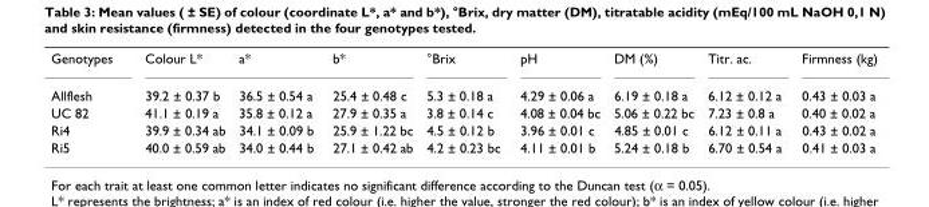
<table><tbody><tr><td>Genotypes</td><td>Colour L*</td><td>a*</td><td>b*</td><td>°Brix</td><td>pH</td><td>DM (%)</td><td>Titr. ac.</td><td>Firmness (kg)</td></tr><tr><td>Allflesh</td><td>39.2 ± 0.37 b</td><td>36.5 ± 0.54 a</td><td>25.4 ± 0.48 c</td><td>5.3 ± 0.18 a</td><td>4.29 ± 0.06 a</td><td>6.19 ± 0.18 a</td><td>6.12 ± 0.12 a</td><td>0.43 ± 0.03 a</td></tr><tr><td>UC 82</td><td>41.1 ± 0.19 a</td><td>35.8 ± 0.12 a</td><td>27.9 ± 0.35 a</td><td>3.8 ± 0.14 c</td><td>4.08 ± 0.04 bc</td><td>5.06 ± 0.22 bc</td><td>7.23 ± 0.8 a</td><td>0.40 ± 0.02 a</td></tr><tr><td>Ri4</td><td>39.9 ± 0.34 ab</td><td>34.1 ± 0.09 b</td><td>25.9 ± 1.22 bc</td><td>4.5 ± 0.12 b</td><td>3.96 ± 0.01 c</td><td>4.85 ± 0.01 c</td><td>6.12 ± 0.11 a</td><td>0.43 ± 0.02 a</td></tr><tr><td>Ri5</td><td>40.0 ± 0.59 ab</td><td>34.0 ± 0.44 b</td><td>27.1 ± 0.42 ab</td><td>4.2 ± 0.23 bc</td><td>4.11 ± 0.01 b</td><td>5.24 ± 0.18 b</td><td>6.70 ± 0.54 a</td><td>0.41 ± 0.03 a</td></tr></tbody></table>